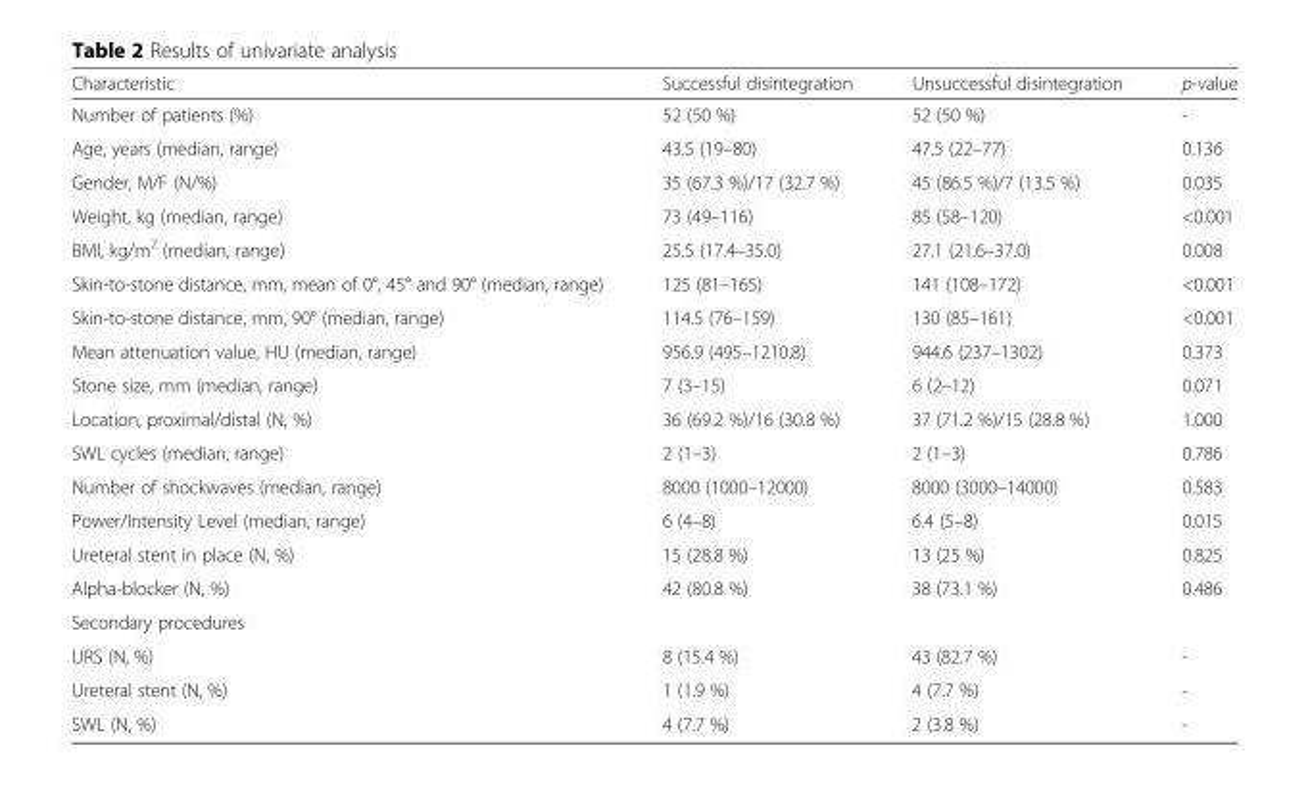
<table><thead><tr><td>Characteristic</td><td>Successful disintegration</td><td>Unsuccessful disintegration</td><td>p-value</td></tr></thead><tbody><tr><td>Number of patients (%)</td><td>52 (50 %)</td><td>52 (50 %)</td><td>-</td></tr><tr><td>Age, years (median, range)</td><td>43.5 (19–80)</td><td>47.5 (22–77)</td><td>0.136</td></tr><tr><td>Gender, M/F (N/%)</td><td>35 (67.3 %)/17 (32.7 %)</td><td>45 (86.5 %)/7 (13.5 %)</td><td>0.035</td></tr><tr><td>Weight, kg (median, range)</td><td>73 (49–116)</td><td>85 (58–120)</td><td>&lt;0.001</td></tr><tr><td>BMI, kg/m<sup>2</sup> (median, range)</td><td>25.5 (17.4–35.0)</td><td>27.1 (21.6–37.0)</td><td>0.008</td></tr><tr><td>Skin-to-stone distance, mm, mean of 0°, 45° and 90° (median, range)</td><td>125 (81–165)</td><td>141 (108–172)</td><td>&lt;0.001</td></tr><tr><td>Skin-to-stone distance, mm, 90° (median, range)</td><td>114.5 (76–159)</td><td>130 (85–161)</td><td>&lt;0.001</td></tr><tr><td>Mean attenuation value, HU (median, range)</td><td>956.9 (495–1210.8)</td><td>944.6 (237–1302)</td><td>0.373</td></tr><tr><td>Stone size, mm (median, range)</td><td>7 (3–15)</td><td>6 (2–12)</td><td>0.071</td></tr><tr><td>Location, proximal/distal (N, %)</td><td>36 (69.2 %)/16 (30.8 %)</td><td>37 (71.2 %)/15 (28.8 %)</td><td>1.000</td></tr><tr><td>SWL cycles (median, range)</td><td>2 (1–3)</td><td>2 (1–3)</td><td>0.786</td></tr><tr><td>Number of shockwaves (median, range)</td><td>8000 (1000–12000)</td><td>8000 (3000–14000)</td><td>0.583</td></tr><tr><td>Power/Intensity Level (median, range)</td><td>6 (4–8)</td><td>6.4 (5–8)</td><td>0.015</td></tr><tr><td>Ureteral stent in place (N, %)</td><td>15 (28.8 %)</td><td>13 (25 %)</td><td>0.825</td></tr><tr><td>Alpha-blocker (N, %)</td><td>42 (80.8 %)</td><td>38 (73.1 %)</td><td>0.486</td></tr><tr><td colspan="4">Secondary procedures</td></tr><tr><td>URS (N, %)</td><td>8 (15.4 %)</td><td>43 (82.7 %)</td><td>-</td></tr><tr><td>Ureteral stent (N, %)</td><td>1 (1.9 %)</td><td>4 (7.7 %)</td><td>-</td></tr><tr><td>SWL (N, %)</td><td>4 (7.7 %)</td><td>2 (3.8 %)</td><td>-</td></tr></tbody></table>